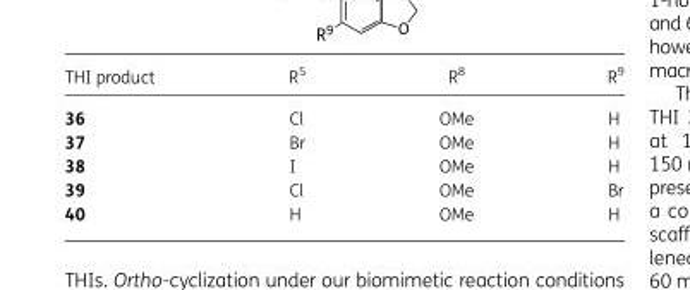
<table><thead><tr><td>THI product</td><td>R<sup>5</sup></td><td>R<sup>8</sup></td><td>R<sup>9</sup></td></tr></thead><tbody><tr><td>36</td><td>Cl</td><td>OMe</td><td>H</td></tr><tr><td>37</td><td>Br</td><td>OMe</td><td>H</td></tr><tr><td>38</td><td>I</td><td>OMe</td><td>H</td></tr><tr><td>39</td><td>Cl</td><td>OMe</td><td>Br</td></tr><tr><td>40</td><td>H</td><td>OMe</td><td>H</td></tr></tbody></table>